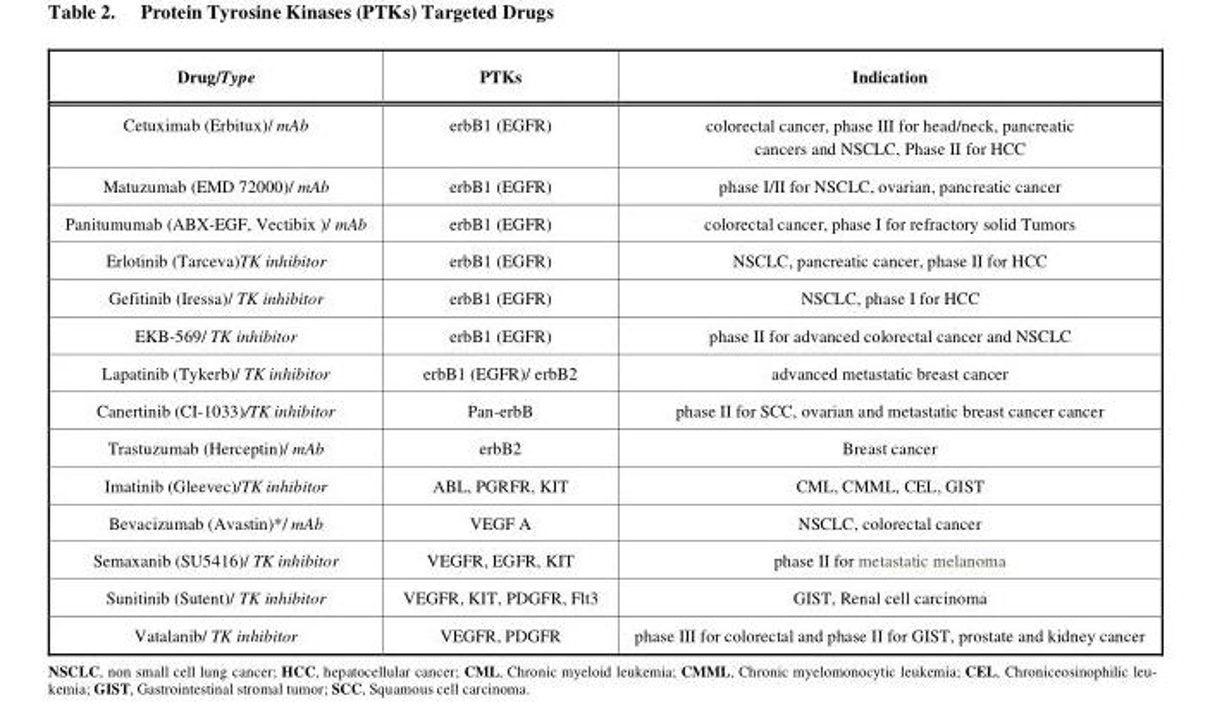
<table><thead><tr><td>Drug/Type</td><td>PTKs</td><td>Indication</td></tr></thead><tbody><tr><td>Cetuximab (Erbitux)/ mAb</td><td>erbB1 (EGFR)</td><td>colorectal cancer, phase III for head/neck, pancreatic cancers and NSCLC, Phase II for HCC</td></tr><tr><td>Matuzumab (EMD 72000)/ mAb</td><td>erbB1 (EGFR)</td><td>phase I/II for NSCLC, ovarian, pancreatic cancer</td></tr><tr><td>Panitumumab (ABX-EGF, Vectibix )/ mAb</td><td>erbB1 (EGFR)</td><td>colorectal cancer, phase I for refractory solid Tumors</td></tr><tr><td>Erlotinib (Tarceva)TK inhibitor</td><td>erbB1 (EGFR)</td><td>NSCLC, pancreatic cancer, phase II for HCC</td></tr><tr><td>Gefitinib (Iressa)/ TK inhibitor</td><td>erbB1 (EGFR)</td><td>NSCLC, phase I for HCC</td></tr><tr><td>EKB-569/ TK inhibitor</td><td>erbB1 (EGFR)</td><td>phase II for advanced colorectal cancer and NSCLC</td></tr><tr><td>Lapatinib (Tykerb)/ TK inhibitor</td><td>erbB1 (EGFR)/ erbB2</td><td>advanced metastatic breast cancer</td></tr><tr><td>Canertinib (CI-1033)/TK inhibitor</td><td>Pan-erbB</td><td>phase II for SCC, ovarian and metastatic breast cancer cancer</td></tr><tr><td>Trastuzumab (Herceptin)/ mAb</td><td>erbB2</td><td>Breast cancer</td></tr><tr><td>Imatinib (Gleevec)/TK inhibitor</td><td>ABL, PGRFR, KIT</td><td>CML, CMML, CEL, GIST</td></tr><tr><td>Bevacizumab (Avastin)*/ mAb</td><td>VEGF A</td><td>NSCLC, colorectal cancer</td></tr><tr><td>Semaxanib (SU5416)/ TK inhibitor</td><td>VEGFR, EGFR, KIT</td><td>phase II for metastatic melanoma</td></tr><tr><td>Sunitinib (Sutent)/ TK inhibitor</td><td>VEGFR, KIT, PDGFR, Flt3</td><td>GIST, Renal cell carcinoma</td></tr><tr><td>Vatalanib/ TK inhibitor</td><td>VEGFR, PDGFR</td><td>phase III for colorectal and phase II for GIST, prostate and kidney cancer</td></tr></tbody></table>